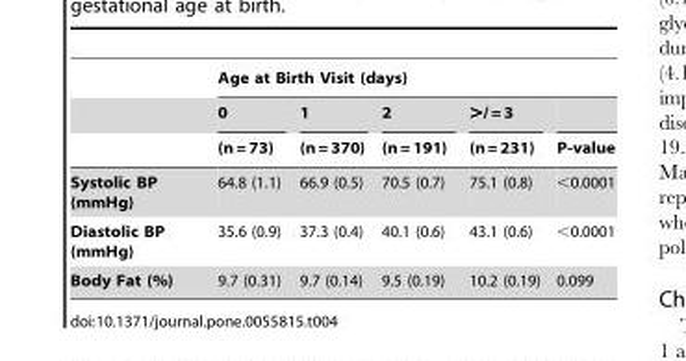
<table><thead><tr><td rowspan="3"></td><td colspan="5">Age at Birth Visit (days)</td></tr><tr><td rowspan="2">0 (n = 73)</td><td rowspan="2">1 (n = 370)</td><td rowspan="2">2 (n = 191)</td><td rowspan="2">&gt;/ = 3 (n = 231)</td><td rowspan="2">P-value</td></tr><tr></tr></thead><tbody><tr><td>Systolic BP (mmHg)</td><td>64.8 (1.1)</td><td>66.9 (0.5)</td><td>70.5 (0.7)</td><td>75.1 (0.8)</td><td>&lt;0.0001</td></tr><tr><td>Diastolic BP (mmHg)</td><td>35.6 (0.9)</td><td>37.3 (0.4)</td><td>40.1 (0.6)</td><td>43.1 (0.6)</td><td>&lt;0.0001</td></tr><tr><td>Body Fat (%)</td><td>9.7 (0.31)</td><td>9.7 (0.14)</td><td>9.5 (0.19)</td><td>10.2 (0.19)</td><td>0.099</td></tr></tbody></table>